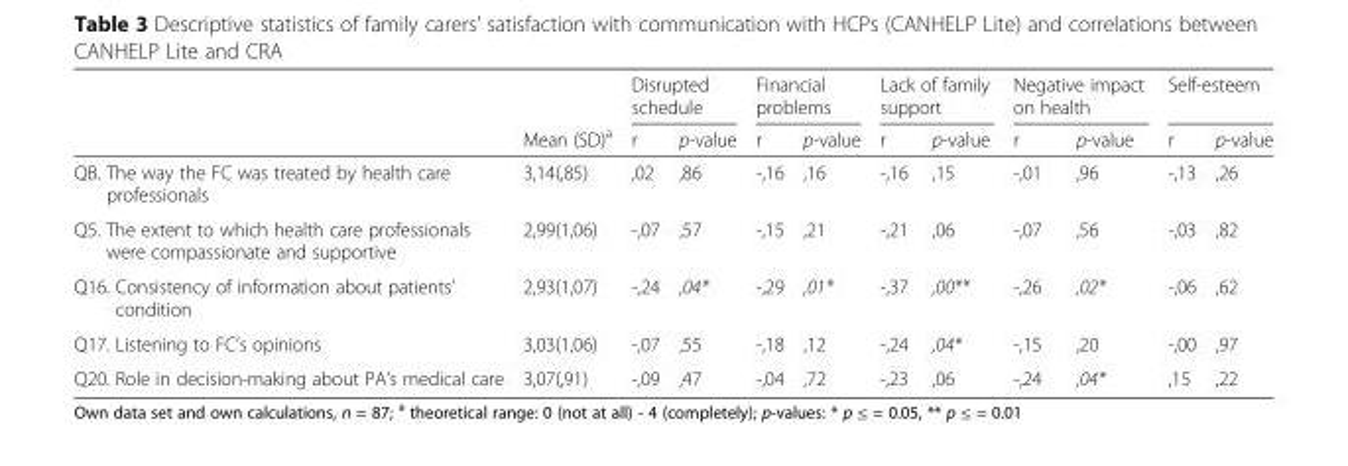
<table><thead><tr><td rowspan="2"></td><td rowspan="2">Mean (SD)<sup>a</sup></td><td colspan="2">Disrupted schedule</td><td colspan="2">Financial problems</td><td colspan="2">Lack of family support</td><td colspan="2">Negative impact on health</td><td colspan="2">Self-esteem</td></tr><tr><td>r</td><td>p-value</td><td>r</td><td>p-value</td><td>r</td><td>p-value</td><td>r</td><td>p-value</td><td>r</td><td>p-value</td></tr></thead><tbody><tr><td>QB. The way the FC was treated by health care professionals</td><td>3,14(,85)</td><td>,02</td><td>,86</td><td>-,16</td><td>,16</td><td>-,16</td><td>,15</td><td>-,01</td><td>,96</td><td>-,13</td><td>,26</td></tr><tr><td>Q5. The extent to which health care professionals were compassionate and supportive</td><td>2,99(1,06)</td><td>-,07</td><td>,57</td><td>-,15</td><td>,21</td><td>-,21</td><td>,06</td><td>-,07</td><td>,56</td><td>-,03</td><td>,82</td></tr><tr><td>Q16. Consistency of information about patients’ condition</td><td>2,93(1,07)</td><td>-,24</td><td>,04*</td><td>-,29</td><td>,01*</td><td>-,37</td><td>,00**</td><td>-,26</td><td>,02*</td><td>-,06</td><td>,62</td></tr><tr><td>Q17. Listening to FC’s opinions</td><td>3,03(1,06)</td><td>-,07</td><td>,55</td><td>-,18</td><td>,12</td><td>-,24</td><td>,04*</td><td>-,15</td><td>,20</td><td>-,00</td><td>,97</td></tr><tr><td>Q20. Role in decision-making about PA’s medical care</td><td>3,07(,91)</td><td>-,09</td><td>,47</td><td>-,04</td><td>,72</td><td>-,23</td><td>,06</td><td>-,24</td><td>,04*</td><td>,15</td><td>,22</td></tr></tbody></table>